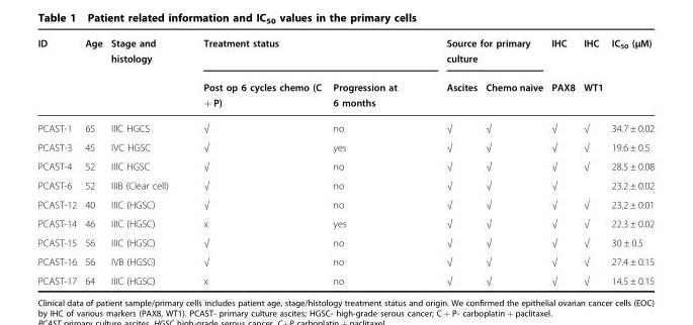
<table><thead><tr><td rowspan="2">ID</td><td rowspan="2">Age</td><td rowspan="2">Stage and histology</td><td colspan="2">Treatment status</td><td colspan="2">Source for primary culture</td><td rowspan="2">IHC PAX8</td><td rowspan="2">IHC WT1</td><td rowspan="2">IC50 (µM)</td></tr><tr><td>Post op 6 cycles chemo (C + P)</td><td>Progression at 6 months</td><td>Ascites</td><td>Chemo naive</td></tr></thead><tbody><tr><td>PCAST-1</td><td>65</td><td>IIIC HGCS</td><td>√</td><td>no</td><td>√</td><td>√</td><td>√</td><td>√</td><td>34.7 ± 0.02</td></tr><tr><td>PCAST-3</td><td>45</td><td>IVC HGSC</td><td>√</td><td>yes</td><td>√</td><td>√</td><td>√</td><td>√</td><td>19.6 ± 0.5</td></tr><tr><td>PCAST-4</td><td>52</td><td>IIIC HGSC</td><td>√</td><td>no</td><td>√</td><td>√</td><td>√</td><td>√</td><td>28.5 ± 0.08</td></tr><tr><td>PCAST-6</td><td>52</td><td>IIIB (Clear cell)</td><td>√</td><td>no</td><td>√</td><td>√</td><td>√</td><td></td><td>23.2 ± 0.02</td></tr><tr><td>PCAST-12</td><td>40</td><td>IIIC (HGSC)</td><td>√</td><td>no</td><td>√</td><td>√</td><td>√</td><td>√</td><td>23.2 ± 0.01</td></tr><tr><td>PCAST-14</td><td>46</td><td>IIIC (HGSC)</td><td>x</td><td>yes</td><td>√</td><td>√</td><td>√</td><td>√</td><td>22.3 ± 0.02</td></tr><tr><td>PCAST-15</td><td>56</td><td>IIIC (HGSC)</td><td>√</td><td>no</td><td>√</td><td>√</td><td>√</td><td>√</td><td>30 ± 0.5</td></tr><tr><td>PCAST-16</td><td>56</td><td>IVB (HGSC)</td><td>√</td><td>no</td><td>√</td><td>√</td><td>√</td><td>√</td><td>27.4 ± 0.15</td></tr><tr><td>PCAST-17</td><td>64</td><td>IIIC (HGSC)</td><td>x</td><td>no</td><td>√</td><td>√</td><td>√</td><td>√</td><td>14.5 ± 0.15</td></tr></tbody></table>